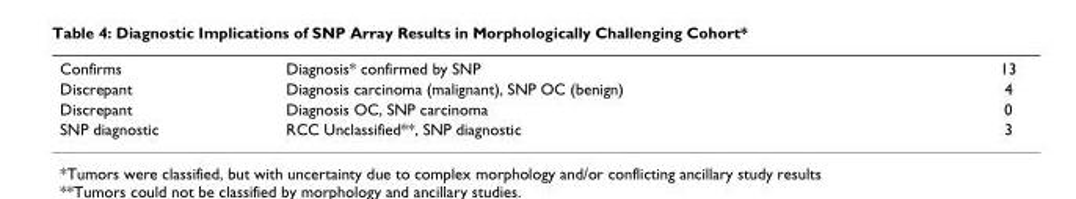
<table><tbody><tr><td>Confirms</td><td>Diagnosis* confirmed by SNP</td><td>13</td></tr><tr><td>Discrepant</td><td>Diagnosis carcinoma (malignant), SNP OC (benign)</td><td>4</td></tr><tr><td>Discrepant</td><td>Diagnosis OC, SNP carcinoma</td><td>0</td></tr><tr><td>SNP diagnostic</td><td>RCC Unclassified**, SNP diagnostic</td><td>3</td></tr></tbody></table>